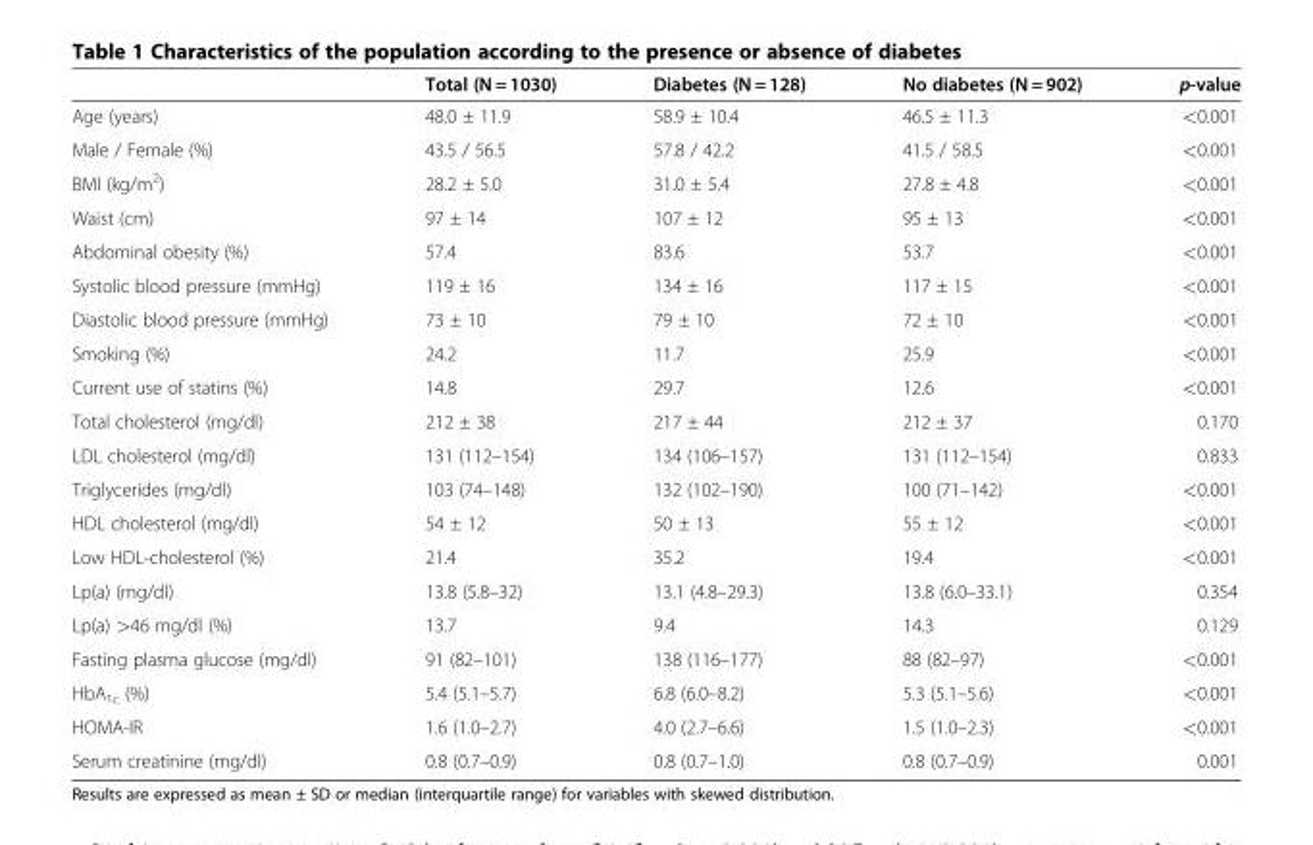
<table><thead><tr><td></td><td>Total (N = 1030)</td><td>Diabetes (N = 128)</td><td>No diabetes (N = 902)</td><td>p-value</td></tr></thead><tbody><tr><td>Age (years)</td><td>48.0 ± 11.9</td><td>58.9 ± 10.4</td><td>46.5 ± 11.3</td><td>&lt;0.001</td></tr><tr><td>Male / Female (%)</td><td>43.5 / 56.5</td><td>57.8 / 42.2</td><td>41.5 / 58.5</td><td>&lt;0.001</td></tr><tr><td>BMI (kg/m<sup>2</sup>)</td><td>28.2 ± 5.0</td><td>31.0 ± 5.4</td><td>27.8 ± 4.8</td><td>&lt;0.001</td></tr><tr><td>Waist (cm)</td><td>97 ± 14</td><td>107 ± 12</td><td>95 ± 13</td><td>&lt;0.001</td></tr><tr><td>Abdominal obesity (%)</td><td>57.4</td><td>83.6</td><td>53.7</td><td>&lt;0.001</td></tr><tr><td>Systolic blood pressure (mmHg)</td><td>119 ± 16</td><td>134 ± 16</td><td>117 ± 15</td><td>&lt;0.001</td></tr><tr><td>Diastolic blood pressure (mmHg)</td><td>73 ± 10</td><td>79 ± 10</td><td>72 ± 10</td><td>&lt;0.001</td></tr><tr><td>Smoking (%)</td><td>24.2</td><td>11.7</td><td>25.9</td><td>&lt;0.001</td></tr><tr><td>Current use of statins (%)</td><td>14.8</td><td>29.7</td><td>12.6</td><td>&lt;0.001</td></tr><tr><td>Total cholesterol (mg/dl)</td><td>212 ± 38</td><td>217 ± 44</td><td>212 ± 37</td><td>0.170</td></tr><tr><td>LDL cholesterol (mg/dl)</td><td>131 (112–154)</td><td>134 (106–157)</td><td>131 (112–154)</td><td>0.833</td></tr><tr><td>Triglycerides (mg/dl)</td><td>103 (74–148)</td><td>132 (102–190)</td><td>100 (71–142)</td><td>&lt;0.001</td></tr><tr><td>HDL cholesterol (mg/dl)</td><td>54 ± 12</td><td>50 ± 13</td><td>55 ± 12</td><td>&lt;0.001</td></tr><tr><td>Low HDL-cholesterol (%)</td><td>21.4</td><td>35.2</td><td>19.4</td><td>&lt;0.001</td></tr><tr><td>Lp(a) (mg/dl)</td><td>13.8 (5.8–32)</td><td>13.1 (4.8–29.3)</td><td>13.8 (6.0–33.1)</td><td>0.354</td></tr><tr><td>Lp(a) &gt;46 mg/dl (%)</td><td>13.7</td><td>9.4</td><td>14.3</td><td>0.129</td></tr><tr><td>Fasting plasma glucose (mg/dl)</td><td>91 (82–101)</td><td>138 (116–177)</td><td>88 (82–97)</td><td>&lt;0.001</td></tr><tr><td>HbA<sub>1c</sub> (%)</td><td>5.4 (5.1–5.7)</td><td>6.8 (6.0–8.2)</td><td>5.3 (5.1–5.6)</td><td>&lt;0.001</td></tr><tr><td>HOMA-IR</td><td>1.6 (1.0–2.7)</td><td>4.0 (2.7–6.6)</td><td>1.5 (1.0–2.3)</td><td>&lt;0.001</td></tr><tr><td>Serum creatinine (mg/dl)</td><td>0.8 (0.7–0.9)</td><td>0.8 (0.7–1.0)</td><td>0.8 (0.7–0.9)</td><td>0.001</td></tr></tbody></table>